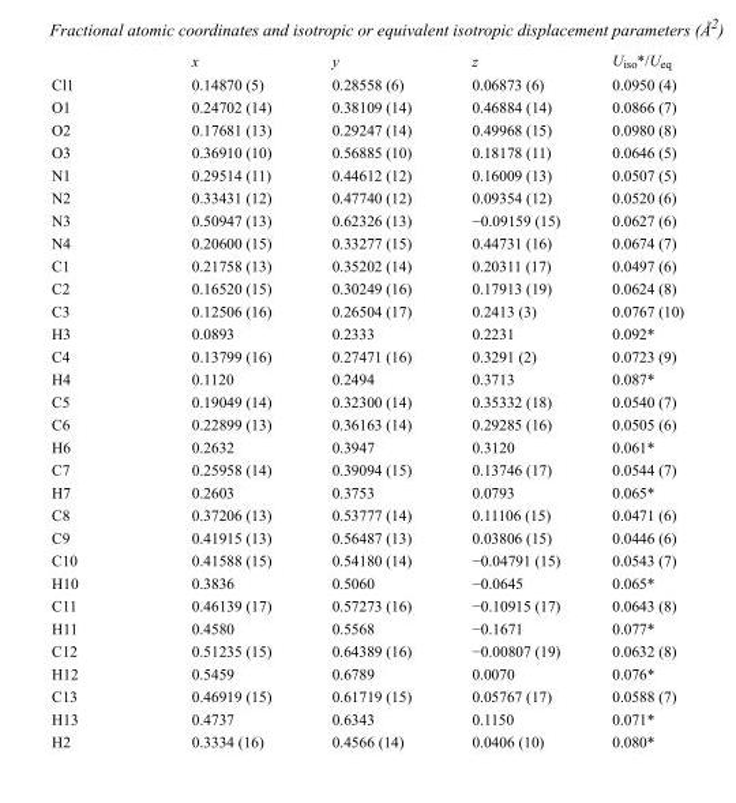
<table><thead><tr><td></td><td>x</td><td>y</td><td>z</td><td>U<sub>iso</sub>*/U<sub>eq</sub></td></tr></thead><tbody><tr><td>Cl1</td><td>0.14870 (5)</td><td>0.28558 (6)</td><td>0.06873 (6)</td><td>0.0950 (4)</td></tr><tr><td>O1</td><td>0.24702 (14)</td><td>0.38109 (14)</td><td>0.46884 (14)</td><td>0.0866 (7)</td></tr><tr><td>O2</td><td>0.17681 (13)</td><td>0.29247 (14)</td><td>0.49968 (15)</td><td>0.0980 (8)</td></tr><tr><td>O3</td><td>0.36910 (10)</td><td>0.56885 (10)</td><td>0.18178 (11)</td><td>0.0646 (5)</td></tr><tr><td>N1</td><td>0.29514 (11)</td><td>0.44612 (12)</td><td>0.16009 (13)</td><td>0.0507 (5)</td></tr><tr><td>N2</td><td>0.33431 (12)</td><td>0.47740 (12)</td><td>0.09354 (12)</td><td>0.0520 (6)</td></tr><tr><td>N3</td><td>0.50947 (13)</td><td>0.62326 (13)</td><td>−0.09159 (15)</td><td>0.0627 (6)</td></tr><tr><td>N4</td><td>0.20600 (15)</td><td>0.33277 (15)</td><td>0.44731 (16)</td><td>0.0674 (7)</td></tr><tr><td>C1</td><td>0.21758 (13)</td><td>0.35202 (14)</td><td>0.20311 (17)</td><td>0.0497 (6)</td></tr><tr><td>C2</td><td>0.16520 (15)</td><td>0.30249 (16)</td><td>0.17913 (19)</td><td>0.0624 (8)</td></tr><tr><td>C3</td><td>0.12506 (16)</td><td>0.26504 (17)</td><td>0.2413 (3)</td><td>0.0767 (10)</td></tr><tr><td>H3</td><td>0.0893</td><td>0.2333</td><td>0.2231</td><td>0.092*</td></tr><tr><td>C4</td><td>0.13799 (16)</td><td>0.27471 (16)</td><td>0.3291 (2)</td><td>0.0723 (9)</td></tr><tr><td>H4</td><td>0.1120</td><td>0.2494</td><td>0.3713</td><td>0.087*</td></tr><tr><td>C5</td><td>0.19049 (14)</td><td>0.32300 (14)</td><td>0.35332 (18)</td><td>0.0540 (7)</td></tr><tr><td>C6</td><td>0.22899 (13)</td><td>0.36163 (14)</td><td>0.29285 (16)</td><td>0.0505 (6)</td></tr><tr><td>H6</td><td>0.2632</td><td>0.3947</td><td>0.3120</td><td>0.061*</td></tr><tr><td>C7</td><td>0.25958 (14)</td><td>0.39094 (15)</td><td>0.13746 (17)</td><td>0.0544 (7)</td></tr><tr><td>H7</td><td>0.2603</td><td>0.3753</td><td>0.0793</td><td>0.065*</td></tr><tr><td>C8</td><td>0.37206 (13)</td><td>0.53777 (14)</td><td>0.11106 (15)</td><td>0.0471 (6)</td></tr><tr><td>C9</td><td>0.41915 (13)</td><td>0.56487 (13)</td><td>0.03806 (15)</td><td>0.0446 (6)</td></tr><tr><td>C10</td><td>0.41588 (15)</td><td>0.54180 (14)</td><td>−0.04791 (15)</td><td>0.0543 (7)</td></tr><tr><td>H10</td><td>0.3836</td><td>0.5060</td><td>−0.0645</td><td>0.065*</td></tr><tr><td>C11</td><td>0.46139 (17)</td><td>0.57273 (16)</td><td>−0.10915 (17)</td><td>0.0643 (8)</td></tr><tr><td>H11</td><td>0.4580</td><td>0.5568</td><td>−0.1671</td><td>0.077*</td></tr><tr><td>C12</td><td>0.51235 (15)</td><td>0.64389 (16)</td><td>−0.00807 (19)</td><td>0.0632 (8)</td></tr><tr><td>H12</td><td>0.5459</td><td>0.6789</td><td>0.0070</td><td>0.076*</td></tr><tr><td>C13</td><td>0.46919 (15)</td><td>0.61719 (15)</td><td>0.05767 (17)</td><td>0.0588 (7)</td></tr><tr><td>H13</td><td>0.4737</td><td>0.6343</td><td>0.1150</td><td>0.071*</td></tr><tr><td>H2</td><td>0.3334 (16)</td><td>0.4566 (14)</td><td>0.0406 (10)</td><td>0.080*</td></tr></tbody></table>